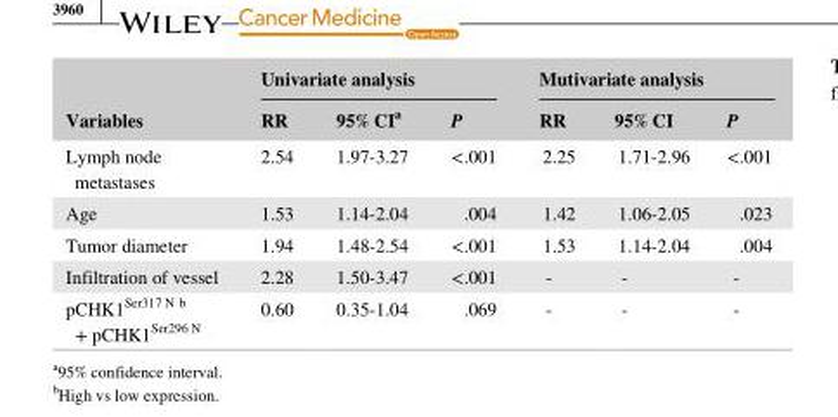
<table><thead><tr><td rowspan="2">Variables</td><td colspan="3">Univariate analysis</td><td colspan="3">Mutivariate analysis</td></tr><tr><td>RR</td><td>95% CI<sup>a</sup></td><td>P</td><td>RR</td><td>95% CI</td><td>P</td></tr></thead><tbody><tr><td>Lymph node metastases</td><td>2.54</td><td>1.97- 3.27</td><td>&lt;.001</td><td>2.25</td><td>1.71- 2.96</td><td>&lt;.001</td></tr><tr><td>Age</td><td>1.53</td><td>1.14- 2.04</td><td>.004</td><td>1.42</td><td>1.06- 2.05</td><td>.023</td></tr><tr><td>Tumor diameter</td><td>1.94</td><td>1.48- 2.54</td><td>&lt;.001</td><td>1.53</td><td>1.14- 2.04</td><td>.004</td></tr><tr><td>Infiltration of vessel</td><td>2.28</td><td>1.50- 3.47</td><td>&lt;.001</td><td>-</td><td>-</td><td>-</td></tr><tr><td>pCHK1<sup>Ser317 N</sup> b + pCHK1<sup>Ser296 N</sup></td><td>0.60</td><td>0.35- 1.04</td><td>.069</td><td>-</td><td>-</td><td>-</td></tr></tbody></table>